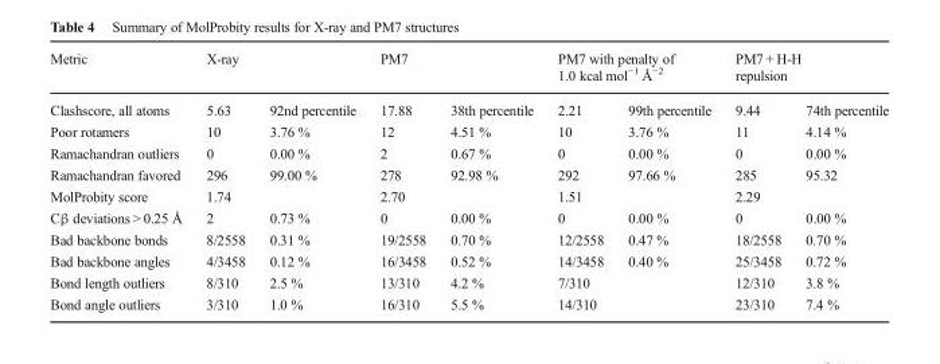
<table><thead><tr><td rowspan="2">Metric Clashscore, all atoms</td><td colspan="2">X-ray</td><td colspan="2">PM7</td><td colspan="2">PM7 with penalty of 1.0 kcal mol−1 Å−2</td><td colspan="2">PM7 + H-H repulsion</td></tr><tr><td>5.63</td><td>92nd percentile</td><td>17.88</td><td>38th percentile</td><td>2.21</td><td>99th percentile</td><td>9.44</td><td>74th percentile</td></tr></thead><tbody><tr><td>Poor rotamers</td><td>10</td><td>3.76 %</td><td>12</td><td>4.51 %</td><td>10</td><td>3.76 %</td><td>11</td><td>4.14 %</td></tr><tr><td>Ramachandran outliers</td><td>0</td><td>0.00 %</td><td>2</td><td>0.67 %</td><td>0</td><td>0.00 %</td><td>0</td><td>0.00 %</td></tr><tr><td>Ramachandran favored</td><td>296</td><td>99.00 %</td><td>278</td><td>92.98 %</td><td>292</td><td>97.66 %</td><td>285</td><td>95.32</td></tr><tr><td>MolProbity score</td><td>1.74</td><td></td><td>2.70</td><td></td><td>1.51</td><td></td><td>2.29</td><td></td></tr><tr><td>Cβ deviations &gt; 0.25 Å</td><td>2</td><td>0.73 %</td><td>0</td><td>0.00 %</td><td>0</td><td>0.00 %</td><td>0</td><td>0.00 %</td></tr><tr><td>Bad backbone bonds</td><td>8/2558</td><td>0.31 %</td><td>19/2558</td><td>0.70 %</td><td>12/2558</td><td>0.47 %</td><td>18/2558</td><td>0.70 %</td></tr><tr><td>Bad backbone angles</td><td>4/3458</td><td>0.12 %</td><td>16/3458</td><td>0.52 %</td><td>14/3458</td><td>0.40 %</td><td>25/3458</td><td>0.72 %</td></tr><tr><td>Bond length outliers</td><td>8/310</td><td>2.5 %</td><td>13/310</td><td>4.2 %</td><td>7/310</td><td></td><td>12/310</td><td>3.8 %</td></tr><tr><td>Bond angle outliers</td><td>3/310</td><td>1.0 %</td><td>16/310</td><td>5.5 %</td><td>14/310</td><td></td><td>23/310</td><td>7.4 %</td></tr></tbody></table>